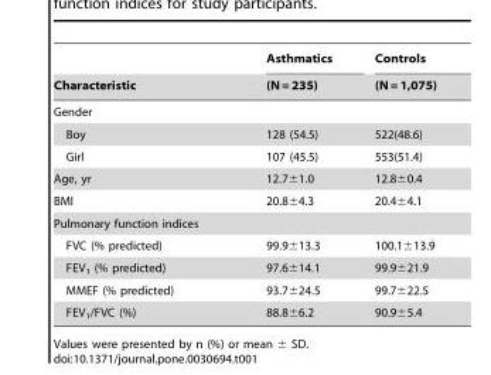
<table><thead><tr><td rowspan="2">Characteristic</td><td rowspan="2">Asthmatics (N = 235)</td><td rowspan="2">Controls (N = 1,075)</td></tr><tr></tr></thead><tbody><tr><td colspan="3">Gender</td></tr><tr><td>Boy</td><td>128 (54.5)</td><td>522(48.6)</td></tr><tr><td>Girl</td><td>107 (45.5)</td><td>553(51.4)</td></tr><tr><td>Age, yr</td><td>12.7±1.0</td><td>12.8±0.4</td></tr><tr><td>BMI</td><td>20.8±4.3</td><td>20.4±4.1</td></tr><tr><td colspan="3">Pulmonary function indices</td></tr><tr><td>FVC (% predicted)</td><td>99.9±13.3</td><td>100.1±13.9</td></tr><tr><td>FEV<sub>1</sub> (% predicted)</td><td>97.6±14.1</td><td>99.9±21.9</td></tr><tr><td>MMEF (% predicted)</td><td>93.7±24.5</td><td>99.7±22.5</td></tr><tr><td>FEV<sub>1</sub>/FVC (%)</td><td>88.8±6.2</td><td>90.9±5.4</td></tr></tbody></table>